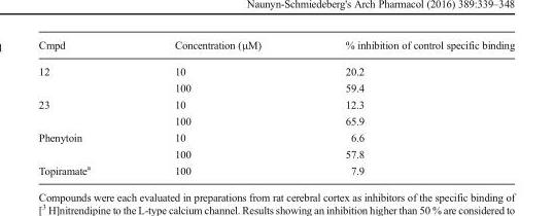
<table><thead><tr><td>Cmpd</td><td>Concentration (μM)</td><td>% inhibition of control specific binding</td></tr></thead><tbody><tr><td rowspan="2">12</td><td>10</td><td>20.2</td></tr><tr><td>100</td><td>59.4</td></tr><tr><td rowspan="2">23</td><td>10</td><td>12.3</td></tr><tr><td>100</td><td>65.9</td></tr><tr><td rowspan="2">Phenytoin</td><td>10</td><td>6.6</td></tr><tr><td>100</td><td>57.8</td></tr><tr><td>Topiramate<sup>a</sup></td><td>100</td><td>7.9</td></tr></tbody></table>